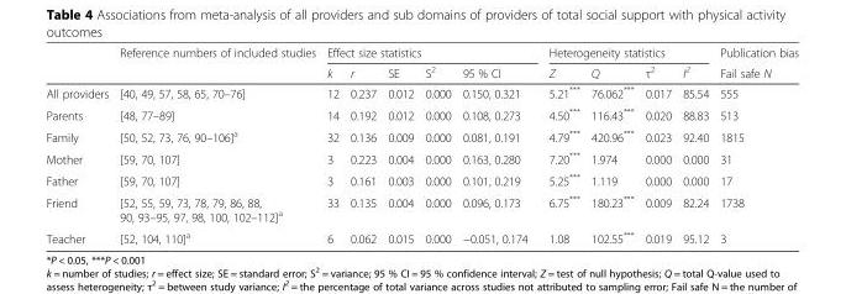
<table><thead><tr><td rowspan="2"></td><td rowspan="2">Reference numbers of included studies</td><td colspan="5">Effect size statistics</td><td colspan="4">Heterogeneity statistics</td><td rowspan="2">Publication bias Fail safe N</td></tr><tr><td>k</td><td>r</td><td>SE</td><td>S<sup>2</sup></td><td>95 % CI</td><td>Z</td><td>Q</td><td>τ<sup>2</sup></td><td>I<sup>2</sup></td></tr></thead><tbody><tr><td>All providers</td><td>[40, 49, 57, 58, 65, 70–76]</td><td>12</td><td>0.237</td><td>0.012</td><td>0.000</td><td>0.150, 0.321</td><td>5.21***</td><td>76.062***</td><td>0.017</td><td>85.54</td><td>555</td></tr><tr><td>Parents</td><td>[48, 77–89]</td><td>14</td><td>0.192</td><td>0.012</td><td>0.000</td><td>0.108, 0.273</td><td>4.50***</td><td>116.43***</td><td>0.020</td><td>88.83</td><td>513</td></tr><tr><td>Family</td><td>[50, 52, 73, 76, 90–106]<sup>a</sup></td><td>32</td><td>0.136</td><td>0.009</td><td>0.000</td><td>0.081, 0.191</td><td>4.79***</td><td>420.96***</td><td>0.023</td><td>92.40</td><td>1815</td></tr><tr><td>Mother</td><td>[59, 70, 107]</td><td>3</td><td>0.223</td><td>0.004</td><td>0.000</td><td>0.163, 0.280</td><td>7.20***</td><td>1.974</td><td>0.000</td><td>0.000</td><td>31</td></tr><tr><td>Father</td><td>[59, 70, 107]</td><td>3</td><td>0.161</td><td>0.003</td><td>0.000</td><td>0.101, 0.219</td><td>5.25***</td><td>1.119</td><td>0.000</td><td>0.000</td><td>17</td></tr><tr><td>Friend</td><td>[52, 55, 59, 73, 78, 79, 86, 88, 90, 93–95, 97, 98, 100, 102–112]<sup>a</sup></td><td>33</td><td>0.135</td><td>0.004</td><td>0.000</td><td>0.096, 0.173</td><td>6.75***</td><td>180.23***</td><td>0.009</td><td>82.24</td><td>1738</td></tr><tr><td>Teacher</td><td>[52, 104, 110]<sup>a</sup></td><td>6</td><td>0.062</td><td>0.015</td><td>0.000</td><td>−0.051, 0.174</td><td>1.08</td><td>102.55***</td><td>0.019</td><td>95.12</td><td>3</td></tr></tbody></table>